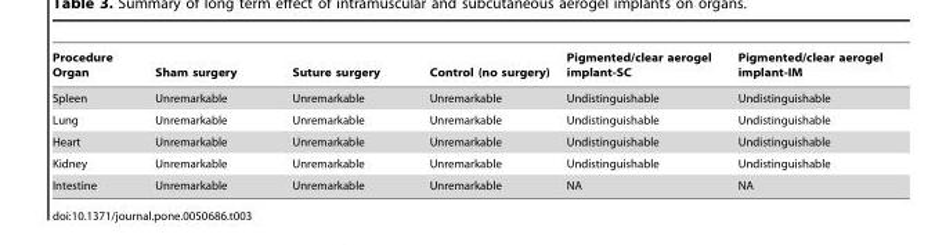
<table><thead><tr><td>Procedure Organ</td><td>Sham surgery</td><td>Suture surgery</td><td>Control (no surgery)</td><td>Pigmented/clear aerogel implant-SC</td><td>Pigmented/clear aerogel implant-IM</td></tr></thead><tbody><tr><td>Spleen</td><td>Unremarkable</td><td>Unremarkable</td><td>Unremarkable</td><td>Undistinguishable</td><td>Undistinguishable</td></tr><tr><td>Lung</td><td>Unremarkable</td><td>Unremarkable</td><td>Unremarkable</td><td>Undistinguishable</td><td>Undistinguishable</td></tr><tr><td>Heart</td><td>Unremarkable</td><td>Unremarkable</td><td>Unremarkable</td><td>Undistinguishable</td><td>Undistinguishable</td></tr><tr><td>Kidney</td><td>Unremarkable</td><td>Unremarkable</td><td>Unremarkable</td><td>Undistinguishable</td><td>Undistinguishable</td></tr><tr><td>Intestine</td><td>Unremarkable</td><td>Unremarkable</td><td>Unremarkable</td><td>NA</td><td>NA</td></tr></tbody></table>